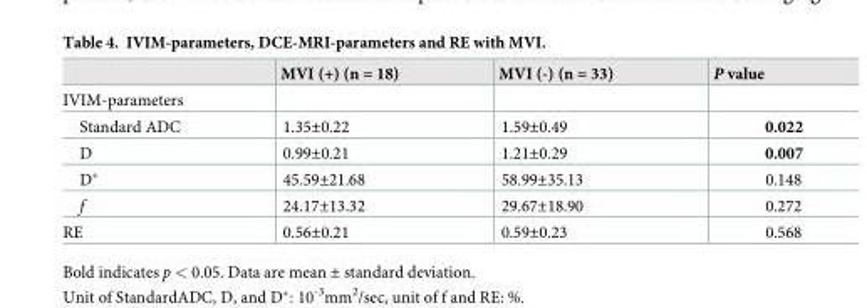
<table><thead><tr><td></td><td>MVI (+) (n = 18)</td><td>MVI (-) (n = 33)</td><td>P value</td></tr></thead><tbody><tr><td colspan="4">IVIM-parameters</td></tr><tr><td>Standard ADC</td><td>1.35±0.22</td><td>1.59±0.49</td><td>0.022</td></tr><tr><td>D</td><td>0.99±0.21</td><td>1.21±0.29</td><td>0.007</td></tr><tr><td>D*</td><td>45.59±21.68</td><td>58.99±35.13</td><td>0.148</td></tr><tr><td>f</td><td>24.17±13.32</td><td>29.67±18.90</td><td>0.272</td></tr><tr><td>RE</td><td>0.56±0.21</td><td>0.59±0.23</td><td>0.568</td></tr></tbody></table>